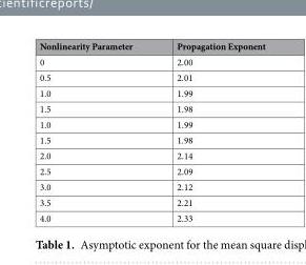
<table><thead><tr><td>Nonlinearity Parameter</td><td>Propagation Exponent</td></tr></thead><tbody><tr><td>0</td><td>2.00</td></tr><tr><td>0.5</td><td>2.01</td></tr><tr><td>1.0</td><td>1.99</td></tr><tr><td>1.5</td><td>1.98</td></tr><tr><td>1.0</td><td>1.99</td></tr><tr><td>1.5</td><td>1.98</td></tr><tr><td>2.0</td><td>2.14</td></tr><tr><td>2.5</td><td>2.09</td></tr><tr><td>3.0</td><td>2.12</td></tr><tr><td>3.5</td><td>2.21</td></tr><tr><td>4.0</td><td>2.33</td></tr></tbody></table>